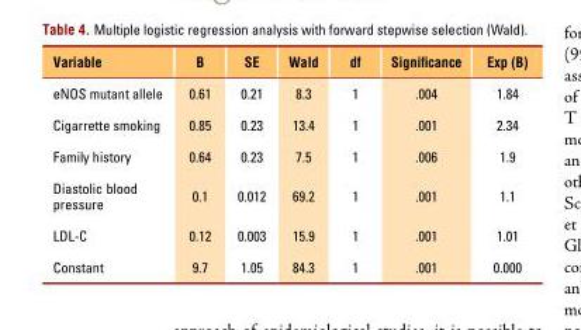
<table><thead><tr><td>Variable</td><td>B</td><td>SE</td><td>Wald</td><td>df</td><td>Significance</td><td>Exp (B)</td></tr></thead><tbody><tr><td>eNOS mutant allele</td><td>0.61</td><td>0.21</td><td>8.3</td><td>1</td><td>.004</td><td>1.84</td></tr><tr><td>Cigarrette smoking</td><td>0.85</td><td>0.23</td><td>13.4</td><td>1</td><td>.001</td><td>2.34</td></tr><tr><td>Family history</td><td>0.64</td><td>0.23</td><td>7.5</td><td>1</td><td>.006</td><td>1.9</td></tr><tr><td>Diastolic blood pressure</td><td>0.1</td><td>0.012</td><td>69.2</td><td>1</td><td>.001</td><td>1.1</td></tr><tr><td>LDL-C</td><td>0.12</td><td>0.003</td><td>15.9</td><td>1</td><td>.001</td><td>1.01</td></tr><tr><td>Constant</td><td>9.7</td><td>1.05</td><td>84.3</td><td>1</td><td>.001</td><td>0.000</td></tr></tbody></table>